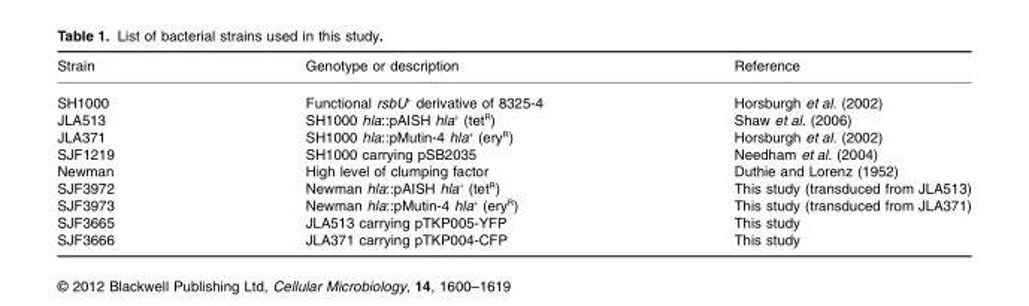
<table><thead><tr><td>Strain</td><td>Genotype or description</td><td>Reference</td></tr></thead><tbody><tr><td>SH1000</td><td>Functional rsbU<sup>+</sup> derivative of 8325-4</td><td>Horsburgh et al. (2002)</td></tr><tr><td>JLA513</td><td>SH1000 hla::pAISH hla<sup>+</sup> (tet<sup>R</sup>)</td><td>Shaw et al. (2006)</td></tr><tr><td>JLA371</td><td>SH1000 hla::pMutin-4 hla<sup>+</sup> (ery<sup>R</sup>)</td><td>Horsburgh et al. (2002)</td></tr><tr><td>SJF1219</td><td>SH1000 carrying pSB2035</td><td>Needham et al. (2004)</td></tr><tr><td>Newman</td><td>High level of clumping factor</td><td>Duthie and Lorenz (1952)</td></tr><tr><td>SJF3972</td><td>Newman hla::pAISH hla<sup>+</sup> (tet<sup>R</sup>)</td><td>This study (transduced from JLA513)</td></tr><tr><td>SJF3973</td><td>Newman hla::pMutin-4 hla<sup>+</sup> (ery<sup>R</sup>)</td><td>This study (transduced from JLA371)</td></tr><tr><td>SJF3665</td><td>JLA513 carrying pTKP005-YFP</td><td>This study</td></tr><tr><td>SJF3666</td><td>JLA371 carrying pTKP004-CFP</td><td>This study</td></tr></tbody></table>